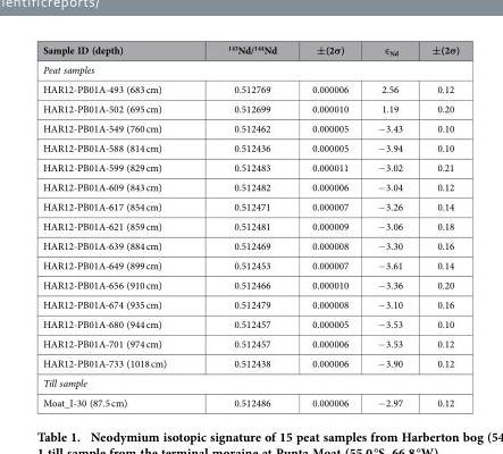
<table><thead><tr><td>Sample ID (depth)</td><td><sup>143</sup>Nd/<sup>144</sup>Nd</td><td>±(2σ)</td><td>ε<sub>Nd</sub></td><td>±(2σ)</td></tr></thead><tbody><tr><td colspan="5">Peat samples</td></tr><tr><td>HAR12-PB01A-493 (683 cm)</td><td>0.512769</td><td>0.000006</td><td>2.56</td><td>0.12</td></tr><tr><td>HAR12-PB01A-502 (695 cm)</td><td>0.512699</td><td>0.000010</td><td>1.19</td><td>0.20</td></tr><tr><td>HAR12-PB01A-549 (760 cm)</td><td>0.512462</td><td>0.000005</td><td>− 3.43</td><td>0.10</td></tr><tr><td>HAR12-PB01A-588 (814 cm)</td><td>0.512436</td><td>0.000005</td><td>− 3.94</td><td>0.10</td></tr><tr><td>HAR12-PB01A-599 (829 cm)</td><td>0.512483</td><td>0.000011</td><td>− 3.02</td><td>0.21</td></tr><tr><td>HAR12-PB01A-609 (843 cm)</td><td>0.512482</td><td>0.000006</td><td>− 3.04</td><td>0.12</td></tr><tr><td>HAR12-PB01A-617 (854 cm)</td><td>0.512471</td><td>0.000007</td><td>− 3.26</td><td>0.14</td></tr><tr><td>HAR12-PB01A-621 (859 cm)</td><td>0.512481</td><td>0.000009</td><td>− 3.06</td><td>0.18</td></tr><tr><td>HAR12-PB01A-639 (884 cm)</td><td>0.512469</td><td>0.000008</td><td>− 3.30</td><td>0.16</td></tr><tr><td>HAR12-PB01A-649 (899 cm)</td><td>0.512453</td><td>0.000007</td><td>− 3.61</td><td>0.14</td></tr><tr><td>HAR12-PB01A-656 (910 cm)</td><td>0.512466</td><td>0.000010</td><td>− 3.36</td><td>0.20</td></tr><tr><td>HAR12-PB01A-674 (935 cm)</td><td>0.512479</td><td>0.000008</td><td>− 3.10</td><td>0.16</td></tr><tr><td>HAR12-PB01A-680 (944 cm)</td><td>0.512457</td><td>0.000005</td><td>− 3.53</td><td>0.10</td></tr><tr><td>HAR12-PB01A-701 (974 cm)</td><td>0.512457</td><td>0.000006</td><td>− 3.53</td><td>0.12</td></tr><tr><td>HAR12-PB01A-733 (1018 cm)</td><td>0.512438</td><td>0.000006</td><td>− 3.90</td><td>0.12</td></tr><tr><td colspan="5">Till sample</td></tr><tr><td>Moat_I-30 (87.5 cm)</td><td>0.512486</td><td>0.000006</td><td>− 2.97</td><td>0.12</td></tr></tbody></table>